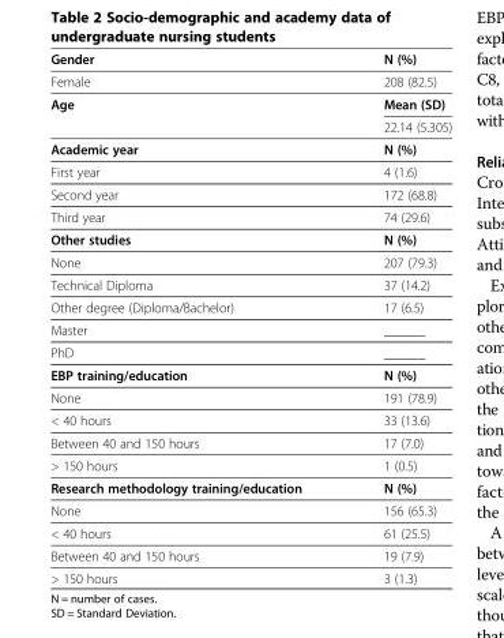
<table><thead><tr><td>Gender</td><td>N (%)</td></tr></thead><tbody><tr><td>Female</td><td>208 (82.5)</td></tr><tr><td rowspan="2">Age</td><td>Mean (SD)</td></tr><tr><td>22.14 (5.305)</td></tr><tr><td>Academic year</td><td>N (%)</td></tr><tr><td>First year</td><td>4 (1.6)</td></tr><tr><td>Second year</td><td>172 (68.8)</td></tr><tr><td>Third year</td><td>74 (29.6)</td></tr><tr><td>Other studies</td><td>N (%)</td></tr><tr><td>None</td><td>207 (79.3)</td></tr><tr><td>Technical Diploma</td><td>37 (14.2)</td></tr><tr><td>Other degree (Diploma/Bachelor)</td><td>17 (6.5)</td></tr><tr><td>Master</td><td>______</td></tr><tr><td>PhD</td><td>______</td></tr><tr><td>EBP training/education</td><td>N (%)</td></tr><tr><td>None</td><td>191 (78.9)</td></tr><tr><td>&lt; 40 hours</td><td>33 (13.6)</td></tr><tr><td>Between 40 and 150 hours</td><td>17 (7.0)</td></tr><tr><td>&gt; 150 hours</td><td>1 (0.5)</td></tr><tr><td>Research methodology training/education</td><td>N (%)</td></tr><tr><td>None</td><td>156 (65.3)</td></tr><tr><td>&lt; 40 hours</td><td>61 (25.5)</td></tr><tr><td>Between 40 and 150 hours</td><td>19 (7.9)</td></tr><tr><td>&gt; 150 hours</td><td>3 (1.3)</td></tr></tbody></table>